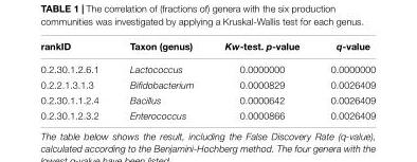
<table><thead><tr><td>rankID</td><td>Taxon (genus)</td><td>Kw-test. p-value</td><td>q-value</td></tr></thead><tbody><tr><td>0.2.30.1.2.6.1</td><td>Lactococcus</td><td>0.0000000</td><td>0.0000000</td></tr><tr><td>0.2.2.1.3.1.3</td><td>Bifidobacterium</td><td>0.0000829</td><td>0.0026409</td></tr><tr><td>0.2.30.1.1.2.4</td><td>Bacillus</td><td>0.0000642</td><td>0.0026409</td></tr><tr><td>0.2.30.1.2.3.2</td><td>Enterococcus</td><td>0.0000866</td><td>0.0026409</td></tr></tbody></table>